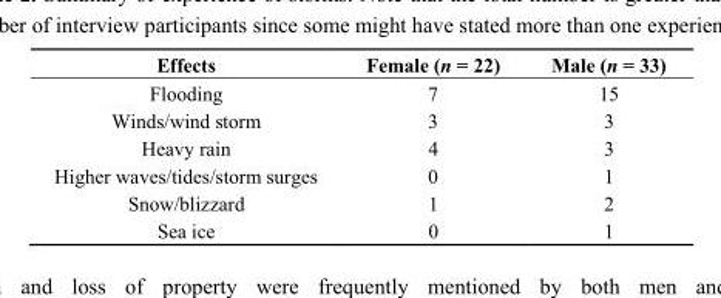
<table><thead><tr><td>Effects</td><td>Female (n = 22)</td><td>Male (n = 33)</td></tr></thead><tbody><tr><td>Flooding</td><td>7</td><td>15</td></tr><tr><td>Winds/wind storm</td><td>3</td><td>3</td></tr><tr><td>Heavy rain</td><td>4</td><td>3</td></tr><tr><td>Higher waves/tides/storm surges</td><td>0</td><td>1</td></tr><tr><td>Snow/blizzard</td><td>1</td><td>2</td></tr><tr><td>Sea ice</td><td>0</td><td>1</td></tr></tbody></table>